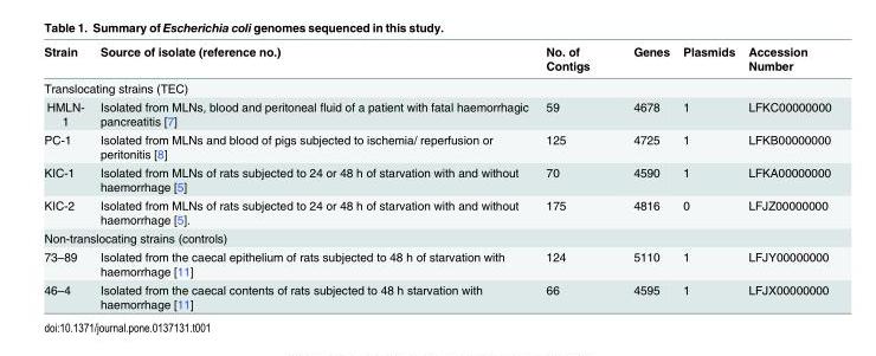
<table><thead><tr><td>Strain</td><td>Source of isolate (reference no.)</td><td>No. of Contigs</td><td>Genes</td><td>Plasmids</td><td>Accession Number</td></tr></thead><tbody><tr><td colspan="6">Translocating strains (TEC)</td></tr><tr><td>HMLN- 1</td><td>Isolated from MLNs, blood and peritoneal fluid of a patient with fatal haemorrhagic pancreatitis [7]</td><td>59</td><td>4678</td><td>1</td><td>LFKC00000000</td></tr><tr><td>PC-1</td><td>Isolated from MLNs and blood of pigs subjected to ischemia/ reperfusion or peritonitis [8]</td><td>125</td><td>4725</td><td>1</td><td>LFKB00000000</td></tr><tr><td>KIC-1</td><td>Isolated from MLNs of rats subjected to 24 or 48 h of starvation with and without haemorrhage [5]</td><td>70</td><td>4590</td><td>1</td><td>LFKA00000000</td></tr><tr><td>KIC-2</td><td>Isolated from MLNs of rats subjected to 24 or 48 h of starvation with and without haemorrhage [5].</td><td>175</td><td>4816</td><td>0</td><td>LFJZ00000000</td></tr><tr><td colspan="6">Non-translocating strains (controls)</td></tr><tr><td>73–89</td><td>Isolated from the caecal epithelium of rats subjected to 48 h of starvation with haemorrhage [11]</td><td>124</td><td>5110</td><td>1</td><td>LFJY00000000</td></tr><tr><td>46–4</td><td>Isolated from the caecal contents of rats subjected to 48 h starvation with haemorrhage [11]</td><td>66</td><td>4595</td><td>1</td><td>LFJX00000000</td></tr></tbody></table>